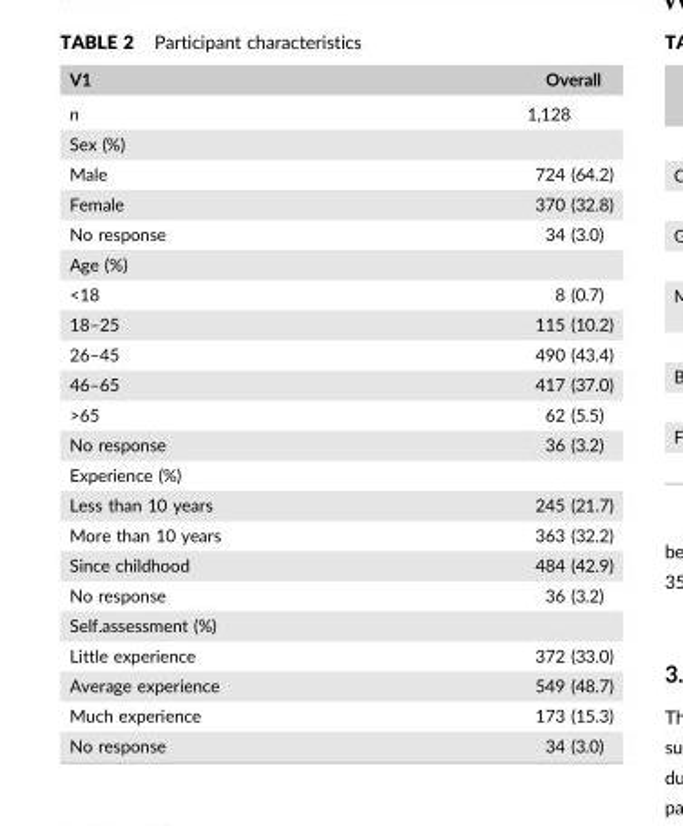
<table><thead><tr><td>V1</td><td>Overall</td></tr></thead><tbody><tr><td>n</td><td>1,128</td></tr><tr><td colspan="2">Sex (%)</td></tr><tr><td>Male</td><td>724 (64.2)</td></tr><tr><td>Female</td><td>370 (32.8)</td></tr><tr><td>No response</td><td>34 (3.0)</td></tr><tr><td colspan="2">Age (%)</td></tr><tr><td>&lt;18</td><td>8 (0.7)</td></tr><tr><td>18–25</td><td>115 (10.2)</td></tr><tr><td>26–45</td><td>490 (43.4)</td></tr><tr><td>46–65</td><td>417 (37.0)</td></tr><tr><td>&gt;65</td><td>62 (5.5)</td></tr><tr><td>No response</td><td>36 (3.2)</td></tr><tr><td colspan="2">Experience (%)</td></tr><tr><td>Less than 10 years</td><td>245 (21.7)</td></tr><tr><td>More than 10 years</td><td>363 (32.2)</td></tr><tr><td>Since childhood</td><td>484 (42.9)</td></tr><tr><td>No response</td><td>36 (3.2)</td></tr><tr><td colspan="2">Self.assessment (%)</td></tr><tr><td>Little experience</td><td>372 (33.0)</td></tr><tr><td>Average experience</td><td>549 (48.7)</td></tr><tr><td>Much experience</td><td>173 (15.3)</td></tr><tr><td>No response</td><td>34 (3.0)</td></tr></tbody></table>